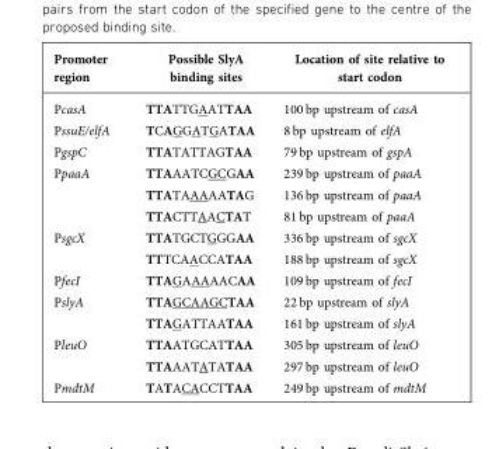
<table><thead><tr><td>Promoter region</td><td>Possible SlyA binding sites</td><td>Location of site relative to start codon</td></tr></thead><tbody><tr><td>PcasA</td><td>TTATTGAATTAA</td><td>100 bp upstream of casA</td></tr><tr><td>PssuE/elfA</td><td>TCAGGATGATAA</td><td>8 bp upstream of elfA</td></tr><tr><td>PgspC</td><td>TTATATTAGTAA</td><td>79 bp upstream of gspA</td></tr><tr><td rowspan="3">PpaaA</td><td>TTAAATCGCGAA</td><td>239 bp upstream of paaA</td></tr><tr><td>TTATAAAAATAG</td><td>136 bp upstream of paaA</td></tr><tr><td>TTACTTAACTAT</td><td>81 bp upstream of paaA</td></tr><tr><td rowspan="2">PsgcX</td><td>TTATGCTGGGAA</td><td>336 bp upstream of sgcX</td></tr><tr><td>TTTCAACCATAA</td><td>188 bp upstream of sgcX</td></tr><tr><td>PfecI</td><td>TTAGAAAAACAA</td><td>109 bp upstream of fecI</td></tr><tr><td rowspan="2">PslyA</td><td>TTAGCAAGCTAA</td><td>22 bp upstream of slyA</td></tr><tr><td>TTAGATTAATAA</td><td>161 bp upstream of slyA</td></tr><tr><td rowspan="2">PleuO</td><td>TTAATGCATTAA</td><td>305 bp upstream of leuO</td></tr><tr><td>TTAAATATATAA</td><td>297 bp upstream of leuO</td></tr><tr><td>PmdtM</td><td>TATACACCTTAA</td><td>249 bp upstream of mdtM</td></tr></tbody></table>